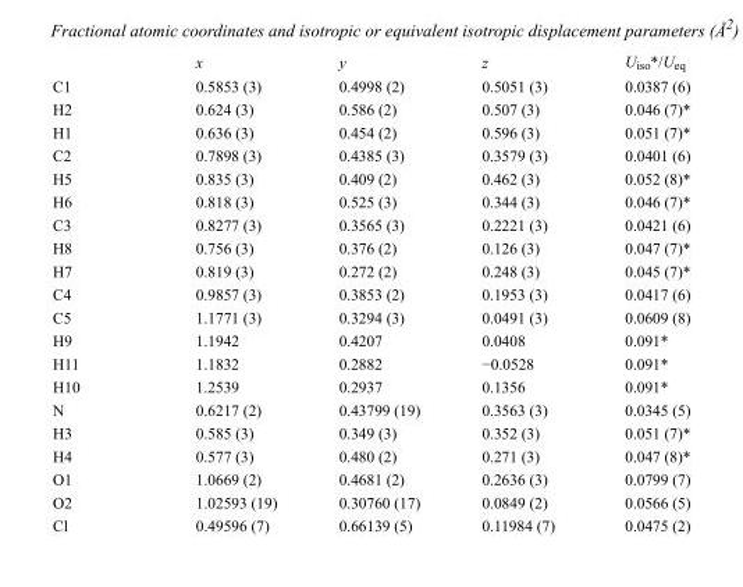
<table><thead><tr><td></td><td>x</td><td>y</td><td>z</td><td>U<sub>iso</sub>*/U<sub>eq</sub></td></tr></thead><tbody><tr><td>C1</td><td>0.5853 (3)</td><td>0.4998 (2)</td><td>0.5051 (3)</td><td>0.0387 (6)</td></tr><tr><td>H2</td><td>0.624 (3)</td><td>0.586 (2)</td><td>0.507 (3)</td><td>0.046 (7)*</td></tr><tr><td>H1</td><td>0.636 (3)</td><td>0.454 (2)</td><td>0.596 (3)</td><td>0.051 (7)*</td></tr><tr><td>C2</td><td>0.7898 (3)</td><td>0.4385 (3)</td><td>0.3579 (3)</td><td>0.0401 (6)</td></tr><tr><td>H5</td><td>0.835 (3)</td><td>0.409 (2)</td><td>0.462 (3)</td><td>0.052 (8)*</td></tr><tr><td>H6</td><td>0.818 (3)</td><td>0.525 (3)</td><td>0.344 (3)</td><td>0.046 (7)*</td></tr><tr><td>C3</td><td>0.8277 (3)</td><td>0.3565 (3)</td><td>0.2221 (3)</td><td>0.0421 (6)</td></tr><tr><td>H8</td><td>0.756 (3)</td><td>0.376 (2)</td><td>0.126 (3)</td><td>0.047 (7)*</td></tr><tr><td>H7</td><td>0.819 (3)</td><td>0.272 (2)</td><td>0.248 (3)</td><td>0.045 (7)*</td></tr><tr><td>C4</td><td>0.9857 (3)</td><td>0.3853 (2)</td><td>0.1953 (3)</td><td>0.0417 (6)</td></tr><tr><td>C5</td><td>1.1771 (3)</td><td>0.3294 (3)</td><td>0.0491 (3)</td><td>0.0609 (8)</td></tr><tr><td>H9</td><td>1.1942</td><td>0.4207</td><td>0.0408</td><td>0.091*</td></tr><tr><td>H11</td><td>1.1832</td><td>0.2882</td><td>−0.0528</td><td>0.091*</td></tr><tr><td>H10</td><td>1.2539</td><td>0.2937</td><td>0.1356</td><td>0.091*</td></tr><tr><td>N</td><td>0.6217 (2)</td><td>0.43799 (19)</td><td>0.3563 (3)</td><td>0.0345 (5)</td></tr><tr><td>H3</td><td>0.585 (3)</td><td>0.349 (3)</td><td>0.352 (3)</td><td>0.051 (7)*</td></tr><tr><td>H4</td><td>0.577 (3)</td><td>0.480 (2)</td><td>0.271 (3)</td><td>0.047 (8)*</td></tr><tr><td>O1</td><td>1.0669 (2)</td><td>0.4681 (2)</td><td>0.2636 (3)</td><td>0.0799 (7)</td></tr><tr><td>O2</td><td>1.02593 (19)</td><td>0.30760 (17)</td><td>0.0849 (2)</td><td>0.0566 (5)</td></tr><tr><td>Cl</td><td>0.49596 (7)</td><td>0.66139 (5)</td><td>0.11984 (7)</td><td>0.0475 (2)</td></tr></tbody></table>